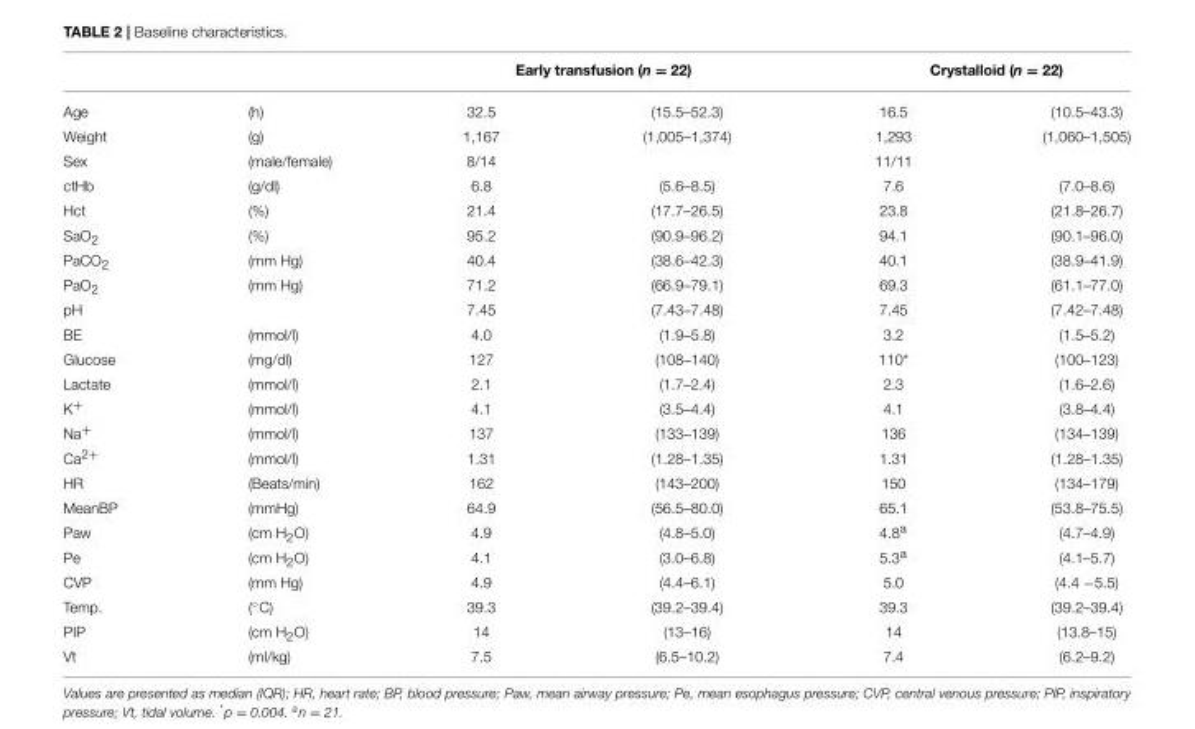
<table><thead><tr><td rowspan="2">Age</td><td rowspan="2">(h)</td><td colspan="2">Early transfusion (n = 22)</td><td colspan="2">Crystalloid (n = 22)</td></tr><tr><td>32.5</td><td>(15.5–52.3)</td><td>16.5</td><td>(10.5–43.3)</td></tr></thead><tbody><tr><td>Weight</td><td>(g)</td><td>1,167</td><td>(1,005–1,374)</td><td>1,293</td><td>(1,060–1,505)</td></tr><tr><td>Sex</td><td>(male/female)</td><td>8/14</td><td></td><td>11/11</td><td></td></tr><tr><td>ctHb</td><td>(g/dl)</td><td>6.8</td><td>(5.6–8.5)</td><td>7.6</td><td>(7.0–8.6)</td></tr><tr><td>Hct</td><td>(%)</td><td>21.4</td><td>(17.7–26.5)</td><td>23.8</td><td>(21.8–26.7)</td></tr><tr><td>SaO<sub>2</sub></td><td>(%)</td><td>95.2</td><td>(90.9–96.2)</td><td>94.1</td><td>(90.1–96.0)</td></tr><tr><td>PaCO<sub>2</sub></td><td>(mm Hg)</td><td>40.4</td><td>(38.6–42.3)</td><td>40.1</td><td>(38.9–41.9)</td></tr><tr><td>PaO<sub>2</sub></td><td>(mm Hg)</td><td>71.2</td><td>(66.9–79.1)</td><td>69.3</td><td>(61.1–77.0)</td></tr><tr><td>pH</td><td></td><td>7.45</td><td>(7.43–7.48)</td><td>7.45</td><td>(7.42–7.48)</td></tr><tr><td>BE</td><td>(mmol/l)</td><td>4.0</td><td>(1.9–5.8)</td><td>3.2</td><td>(1.5–5.2)</td></tr><tr><td>Glucose</td><td>(mg/dl)</td><td>127</td><td>(108–140)</td><td>110*</td><td>(100–123)</td></tr><tr><td>Lactate</td><td>(mmol/l)</td><td>2.1</td><td>(1.7–2.4)</td><td>2.3</td><td>(1.6–2.6)</td></tr><tr><td>K<sup>+</sup></td><td>(mmol/l)</td><td>4.1</td><td>(3.5–4.4)</td><td>4.1</td><td>(3.8–4.4)</td></tr><tr><td>Na<sup>+</sup></td><td>(mmol/l)</td><td>137</td><td>(133–139)</td><td>136</td><td>(134–139)</td></tr><tr><td>Ca<sup>2+</sup></td><td>(mmol/l)</td><td>1.31</td><td>(1.28–1.35)</td><td>1.31</td><td>(1.28–1.35)</td></tr><tr><td>HR</td><td>(Beats/min)</td><td>162</td><td>(143–200)</td><td>150</td><td>(134–179)</td></tr><tr><td>MeanBP</td><td>(mmHg)</td><td>64.9</td><td>(56.5–80.0)</td><td>65.1</td><td>(53.8–75.5)</td></tr><tr><td>Paw</td><td>(cm H<sub>2</sub>O)</td><td>4.9</td><td>(4.8–5.0)</td><td>4.8<sup>a</sup></td><td>(4.7–4.9)</td></tr><tr><td>Pe</td><td>(cm H<sub>2</sub>O)</td><td>4.1</td><td>(3.0–6.8)</td><td>5.3<sup>a</sup></td><td>(4.1–5.7)</td></tr><tr><td>CVP</td><td>(mm Hg)</td><td>4.9</td><td>(4.4–6.1)</td><td>5.0</td><td>(4.4 −5.5)</td></tr><tr><td>Temp.</td><td>(◦C)</td><td>39.3</td><td>(39.2–39.4)</td><td>39.3</td><td>(39.2–39.4)</td></tr><tr><td>PIP</td><td>(cm H<sub>2</sub>O)</td><td>14</td><td>(13–16)</td><td>14</td><td>(13.8–15)</td></tr><tr><td>Vt</td><td>(ml/kg)</td><td>7.5</td><td>(6.5–10.2)</td><td>7.4</td><td>(6.2–9.2)</td></tr></tbody></table>